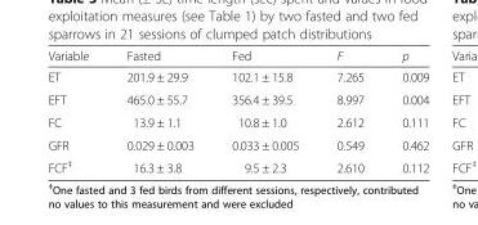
<table><thead><tr><td>Variable</td><td>Fasted</td><td>Fed</td><td>F</td><td>p</td></tr></thead><tbody><tr><td>ET</td><td>201.9 ± 29.9</td><td>102.1 ± 15.8</td><td>7.265</td><td>0.009</td></tr><tr><td>EFT</td><td>465.0 ± 55.7</td><td>356.4 ± 39.5</td><td>8.997</td><td>0.004</td></tr><tr><td>FC</td><td>13.9 ± 1.1</td><td>10.8 ± 1.0</td><td>2.612</td><td>0.111</td></tr><tr><td>GFR</td><td>0.029 ± 0.003</td><td>0.033 ± 0.005</td><td>0.549</td><td>0.462</td></tr><tr><td>FCF<sup>‡</sup></td><td>16.3 ± 3.8</td><td>9.5 ± 2.3</td><td>2.610</td><td>0.112</td></tr></tbody></table>